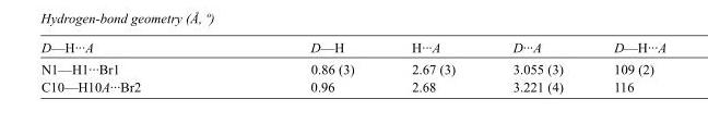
<table><tbody><tr><td>D—H···A</td><td>D—H</td><td>H···A</td><td>D···A</td><td>D—H···A</td></tr><tr><td>N1—H1···Br1</td><td>0.86 (3)</td><td>2.67 (3)</td><td>3.055 (3)</td><td>109 (2)</td></tr><tr><td>C10—H10A···Br2</td><td>0.96</td><td>2.68</td><td>3.221 (4)</td><td>116</td></tr></tbody></table>